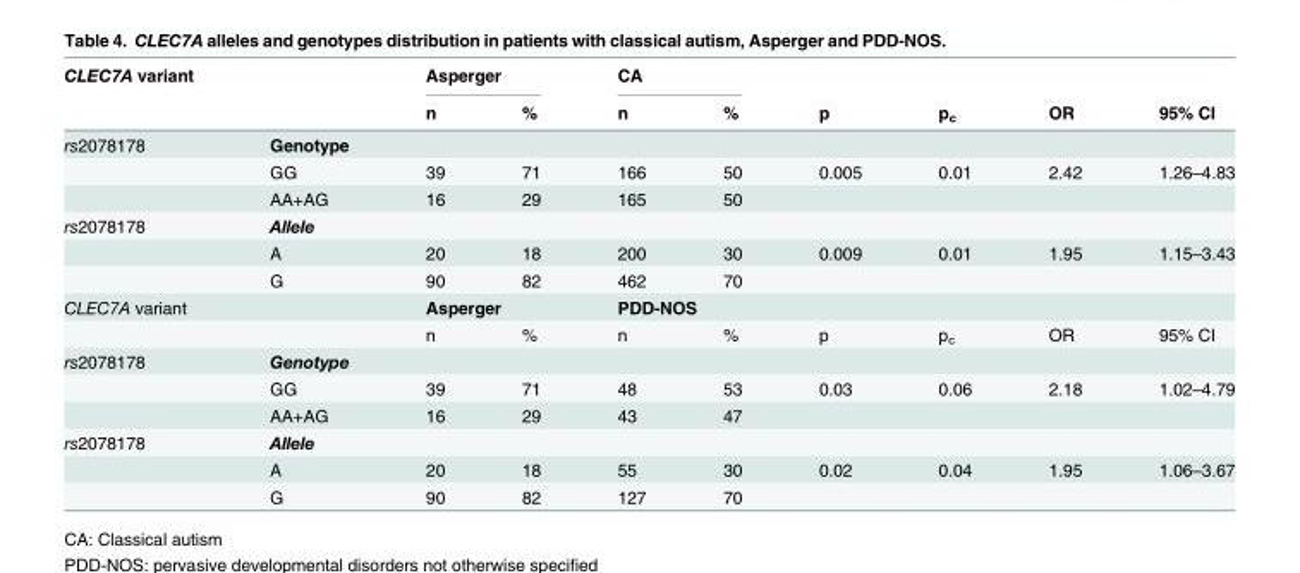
<table><thead><tr><td rowspan="2">CLEC7A variant</td><td rowspan="2"></td><td colspan="2">Asperger</td><td colspan="2">CA</td><td rowspan="2">p</td><td rowspan="2">p<sub>c</sub></td><td rowspan="2">OR</td><td rowspan="2">95% CI</td></tr><tr><td>n</td><td>%</td><td>n</td><td>%</td></tr></thead><tbody><tr><td rowspan="3">rs2078178</td><td>Genotype</td><td></td><td></td><td></td><td></td><td></td><td></td><td></td><td></td></tr><tr><td>GG</td><td>39</td><td>71</td><td>166</td><td>50</td><td>0.005</td><td>0.01</td><td>2.42</td><td>1.26–4.83</td></tr><tr><td>AA+AG</td><td>16</td><td>29</td><td>165</td><td>50</td><td></td><td></td><td></td><td></td></tr><tr><td rowspan="3">rs2078178</td><td>Allele</td><td></td><td></td><td></td><td></td><td></td><td></td><td></td><td></td></tr><tr><td>A</td><td>20</td><td>18</td><td>200</td><td>30</td><td>0.009</td><td>0.01</td><td>1.95</td><td>1.15–3.43</td></tr><tr><td>G</td><td>90</td><td>82</td><td>462</td><td>70</td><td></td><td></td><td></td><td></td></tr><tr><td rowspan="2">CLEC7A variant</td><td></td><td colspan="2">Asperger</td><td colspan="2">PDD-NOS</td><td></td><td></td><td></td><td></td></tr><tr><td></td><td>n</td><td>%</td><td>n</td><td>%</td><td>p</td><td>p<sub>c</sub></td><td>OR</td><td>95% CI</td></tr><tr><td rowspan="3">rs2078178</td><td>Genotype</td><td></td><td></td><td></td><td></td><td></td><td></td><td></td><td></td></tr><tr><td>GG</td><td>39</td><td>71</td><td>48</td><td>53</td><td>0.03</td><td>0.06</td><td>2.18</td><td>1.02–4.79</td></tr><tr><td>AA+AG</td><td>16</td><td>29</td><td>43</td><td>47</td><td></td><td></td><td></td><td></td></tr><tr><td rowspan="3">rs2078178</td><td>Allele</td><td></td><td></td><td></td><td></td><td></td><td></td><td></td><td></td></tr><tr><td>A</td><td>20</td><td>18</td><td>55</td><td>30</td><td>0.02</td><td>0.04</td><td>1.95</td><td>1.06–3.67</td></tr><tr><td>G</td><td>90</td><td>82</td><td>127</td><td>70</td><td></td><td></td><td></td><td></td></tr></tbody></table>